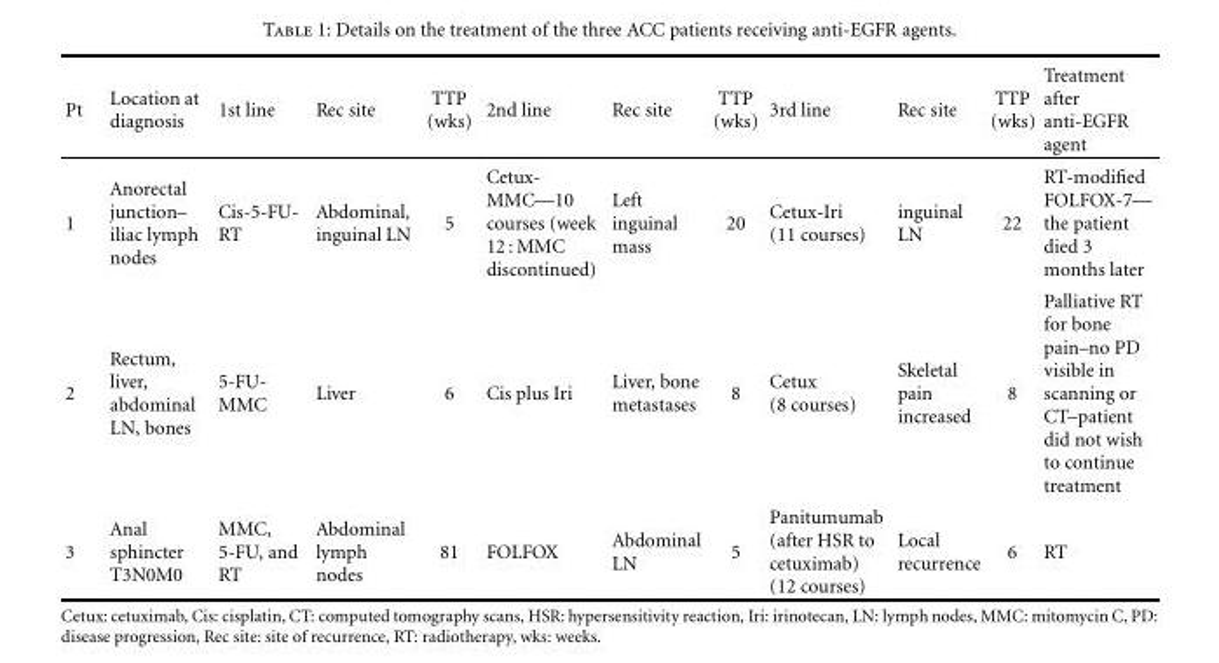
<table><thead><tr><td>Pt</td><td>Location at diagnosis</td><td>1st line</td><td>Rec site</td><td>TTP (wks)</td><td>2nd line</td><td>Rec site</td><td>TTP (wks)</td><td>3rd line</td><td>Rec site</td><td>TTP (wks)</td><td>Treatment after anti-EGFR agent</td></tr></thead><tbody><tr><td>1</td><td>Anorectal junction– iliac lymph nodes</td><td>Cis-5-FU- RT</td><td>Abdominal, inguinal LN</td><td>5</td><td>Cetux- MMC—10 courses (week 12 : MMC discontinued)</td><td>Left inguinal mass</td><td>20</td><td>Cetux-Iri (11 courses)</td><td>inguinal LN</td><td>22</td><td>RT-modified FOLFOX-7— the patient died 3 months later</td></tr><tr><td>2</td><td>Rectum, liver, abdominal LN, bones</td><td>5-FU- MMC</td><td>Liver</td><td>6</td><td>Cis plus Iri</td><td>Liver, bone metastases</td><td>8</td><td>Cetux (8 courses)</td><td>Skeletal pain increased</td><td>8</td><td>Palliative RT for bone pain–no PD visible in scanning or CT–patient did not wish to continue treatment</td></tr><tr><td>3</td><td>Anal sphincter T3N0M0</td><td>MMC, 5-FU, and RT</td><td>Abdominal lymph nodes</td><td>81</td><td>FOLFOX</td><td>Abdominal LN</td><td>5</td><td>Panitumumab (after HSR to cetuximab) (12 courses)</td><td>Local recurrence</td><td>6</td><td>RT</td></tr></tbody></table>